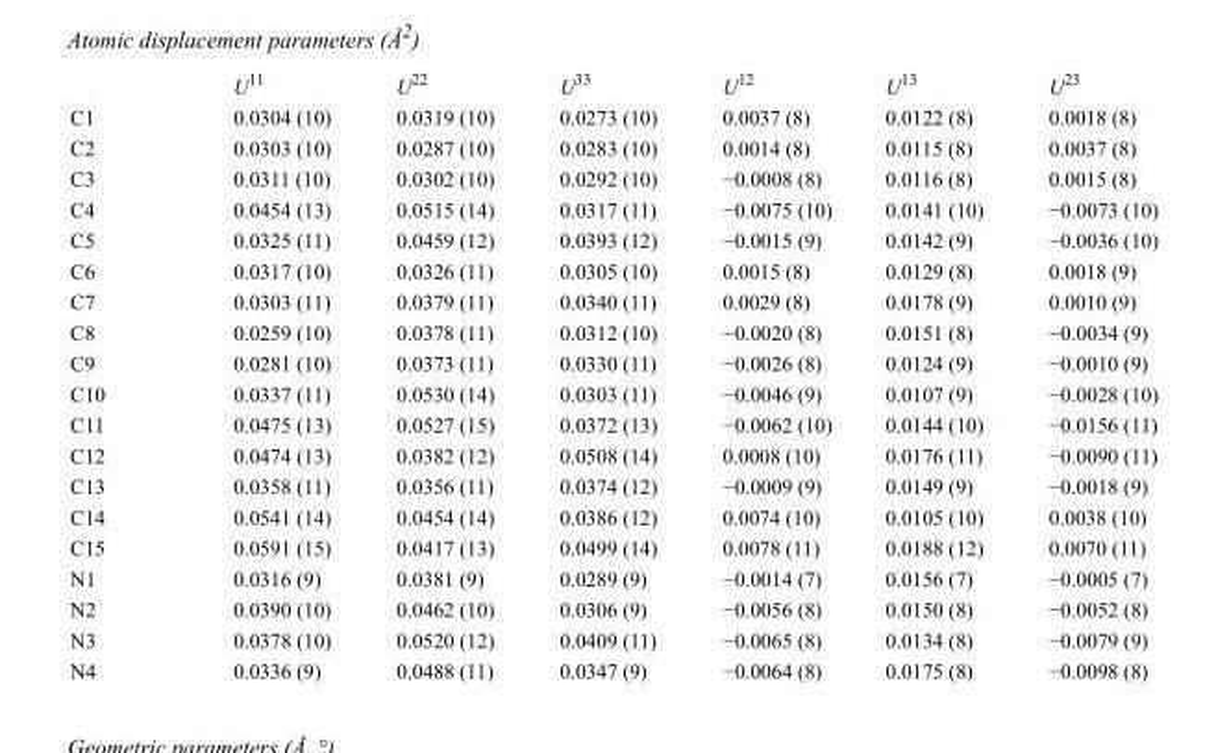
<table><thead><tr><td></td><td>U<sup>11</sup></td><td>U<sup>22</sup></td><td>U<sup>33</sup></td><td>U<sup>12</sup></td><td>U<sup>13</sup></td><td>U<sup>23</sup></td></tr></thead><tbody><tr><td>C1</td><td>0.0304 (10)</td><td>0.0319 (10)</td><td>0.0273 (10)</td><td>0.0037 (8)</td><td>0.0122 (8)</td><td>0.0018 (8)</td></tr><tr><td>C2</td><td>0.0303 (10)</td><td>0.0287 (10)</td><td>0.0283 (10)</td><td>0.0014 (8)</td><td>0.0115 (8)</td><td>0.0037 (8)</td></tr><tr><td>C3</td><td>0.0311 (10)</td><td>0.0302 (10)</td><td>0.0292 (10)</td><td>−0.0008 (8)</td><td>0.0116 (8)</td><td>0.0015 (8)</td></tr><tr><td>C4</td><td>0.0454 (13)</td><td>0.0515 (14)</td><td>0.0317 (11)</td><td>−0.0075 (10)</td><td>0.0141 (10)</td><td>−0.0073 (10)</td></tr><tr><td>C5</td><td>0.0325 (11)</td><td>0.0459 (12)</td><td>0.0393 (12)</td><td>−0.0015 (9)</td><td>0.0142 (9)</td><td>−0.0036 (10)</td></tr><tr><td>C6</td><td>0.0317 (10)</td><td>0.0326 (11)</td><td>0.0305 (10)</td><td>0.0015 (8)</td><td>0.0129 (8)</td><td>0.0018 (9)</td></tr><tr><td>C7</td><td>0.0303 (11)</td><td>0.0379 (11)</td><td>0.0340 (11)</td><td>0.0029 (8)</td><td>0.0178 (9)</td><td>0.0010 (9)</td></tr><tr><td>C8</td><td>0.0259 (10)</td><td>0.0378 (11)</td><td>0.0312 (10)</td><td>−0.0020 (8)</td><td>0.0151 (8)</td><td>−0.0034 (9)</td></tr><tr><td>C9</td><td>0.0281 (10)</td><td>0.0373 (11)</td><td>0.0330 (11)</td><td>−0.0026 (8)</td><td>0.0124 (9)</td><td>−0.0010 (9)</td></tr><tr><td>C10</td><td>0.0337 (11)</td><td>0.0530 (14)</td><td>0.0303 (11)</td><td>−0.0046 (9)</td><td>0.0107 (9)</td><td>−0.0028 (10)</td></tr><tr><td>C11</td><td>0.0475 (13)</td><td>0.0527 (15)</td><td>0.0372 (13)</td><td>−0.0062 (10)</td><td>0.0144 (10)</td><td>−0.0156 (11)</td></tr><tr><td>C12</td><td>0.0474 (13)</td><td>0.0382 (12)</td><td>0.0508 (14)</td><td>0.0008 (10)</td><td>0.0176 (11)</td><td>−0.0090 (11)</td></tr><tr><td>C13</td><td>0.0358 (11)</td><td>0.0356 (11)</td><td>0.0374 (12)</td><td>−0.0009 (9)</td><td>0.0149 (9)</td><td>−0.0018 (9)</td></tr><tr><td>C14</td><td>0.0541 (14)</td><td>0.0454 (14)</td><td>0.0386 (12)</td><td>0.0074 (10)</td><td>0.0105 (10)</td><td>0.0038 (10)</td></tr><tr><td>C15</td><td>0.0591 (15)</td><td>0.0417 (13)</td><td>0.0499 (14)</td><td>0.0078 (11)</td><td>0.0188 (12)</td><td>0.0070 (11)</td></tr><tr><td>N1</td><td>0.0316 (9)</td><td>0.0381 (9)</td><td>0.0289 (9)</td><td>−0.0014 (7)</td><td>0.0156 (7)</td><td>−0.0005 (7)</td></tr><tr><td>N2</td><td>0.0390 (10)</td><td>0.0462 (10)</td><td>0.0306 (9)</td><td>−0.0056 (8)</td><td>0.0150 (8)</td><td>−0.0052 (8)</td></tr><tr><td>N3</td><td>0.0378 (10)</td><td>0.0520 (12)</td><td>0.0409 (11)</td><td>−0.0065 (8)</td><td>0.0134 (8)</td><td>−0.0079 (9)</td></tr><tr><td>N4</td><td>0.0336 (9)</td><td>0.0488 (11)</td><td>0.0347 (9)</td><td>−0.0064 (8)</td><td>0.0175 (8)</td><td>−0.0098 (8)</td></tr></tbody></table>